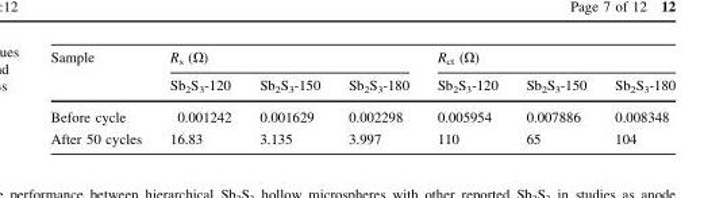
<table><thead><tr><td rowspan="2">Sample</td><td colspan="3">R<sub>s</sub> (Ω)</td><td colspan="3">R<sub>ct</sub> (Ω)</td></tr><tr><td>Sb<sub>2</sub>S<sub>3</sub>-120</td><td>Sb<sub>2</sub>S<sub>3</sub>-150</td><td>Sb<sub>2</sub>S<sub>3</sub>-180</td><td>Sb<sub>2</sub>S<sub>3</sub>-120</td><td>Sb<sub>2</sub>S<sub>3</sub>-150</td><td>Sb<sub>2</sub>S<sub>3</sub>-180</td></tr></thead><tbody><tr><td>Before cycle</td><td>0.001242</td><td>0.001629</td><td>0.002298</td><td>0.005954</td><td>0.007886</td><td>0.008348</td></tr><tr><td>After 50 cycles</td><td>16.83</td><td>3.135</td><td>3.997</td><td>110</td><td>65</td><td>104</td></tr></tbody></table>